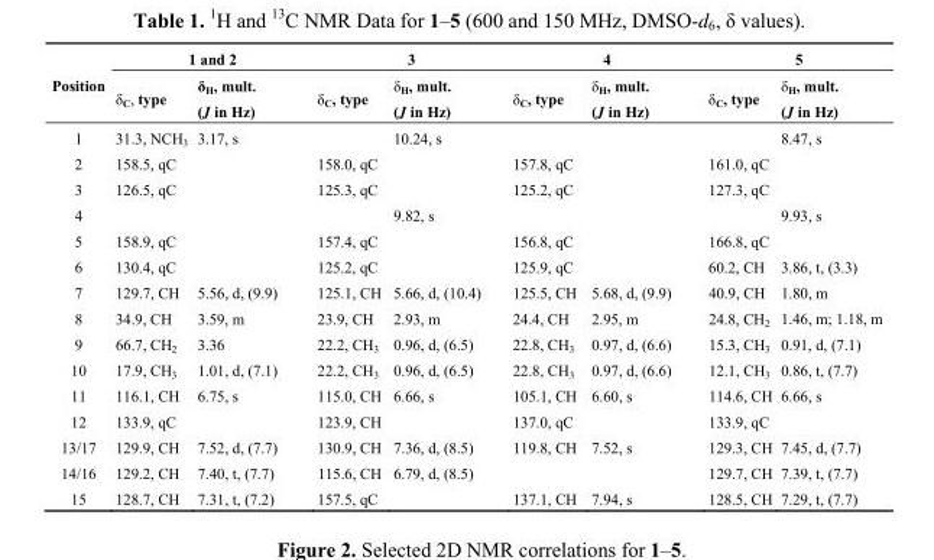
<table><thead><tr><td rowspan="2">Position</td><td colspan="2">1 and 2</td><td colspan="2">3</td><td colspan="2">4</td><td colspan="2">5</td></tr><tr><td>δ<sub>C</sub>, type</td><td>δ<sub>H</sub>, mult. (J in Hz)</td><td>δ<sub>C</sub>, type</td><td>δ<sub>H</sub>, mult. (J in Hz)</td><td>δ<sub>C</sub>, type</td><td>δ<sub>H</sub>, mult. (J in Hz)</td><td>δ<sub>C</sub>, type</td><td>δ<sub>H</sub>, mult. (J in Hz)</td></tr></thead><tbody><tr><td>1</td><td>31.3, NCH<sub>3</sub></td><td>3.17, s</td><td></td><td>10.24, s</td><td></td><td></td><td></td><td>8.47, s</td></tr><tr><td>2</td><td>158.5, qC</td><td></td><td>158.0, qC</td><td></td><td>157.8, qC</td><td></td><td>161.0, qC</td><td></td></tr><tr><td>3</td><td>126.5, qC</td><td></td><td>125.3, qC</td><td></td><td>125.2, qC</td><td></td><td>127.3, qC</td><td></td></tr><tr><td>4</td><td></td><td></td><td></td><td>9.82, s</td><td></td><td></td><td></td><td>9.93, s</td></tr><tr><td>5</td><td>158.9, qC</td><td></td><td>157.4, qC</td><td></td><td>156.8, qC</td><td></td><td>166.8, qC</td><td></td></tr><tr><td>6</td><td>130.4, qC</td><td></td><td>125.2, qC</td><td></td><td>125.9, qC</td><td></td><td>60.2, CH</td><td>3.86, t, (3.3)</td></tr><tr><td>7</td><td>129.7, CH</td><td>5.56, d, (9.9)</td><td>125.1, CH</td><td>5.66, d, (10.4)</td><td>125.5, CH</td><td>5.68, d, (9.9)</td><td>40.9, CH</td><td>1.80, m</td></tr><tr><td>8</td><td>34.9, CH</td><td>3.59, m</td><td>23.9, CH</td><td>2.93, m</td><td>24.4, CH</td><td>2.95, m</td><td>24.8, CH<sub>2</sub></td><td>1.46, m; 1.18, m</td></tr><tr><td>9</td><td>66.7, CH<sub>2</sub></td><td>3.36</td><td>22.2, CH<sub>3</sub></td><td>0.96, d, (6.5)</td><td>22.8, CH<sub>3</sub></td><td>0.97, d, (6.6)</td><td>15.3, CH<sub>3</sub></td><td>0.91, d, (7.1)</td></tr><tr><td>10</td><td>17.9, CH<sub>3</sub></td><td>1.01, d, (7.1)</td><td>22.2, CH<sub>3</sub></td><td>0.96, d, (6.5)</td><td>22.8, CH<sub>3</sub></td><td>0.97, d, (6.6)</td><td>12.1, CH<sub>3</sub></td><td>0.86, t, (7.7)</td></tr><tr><td>11</td><td>116.1, CH</td><td>6.75, s</td><td>115.0, CH</td><td>6.66, s</td><td>105.1, CH</td><td>6.60, s</td><td>114.6, CH</td><td>6.66, s</td></tr><tr><td>12</td><td>133.9, qC</td><td></td><td>123.9, CH</td><td></td><td>137.0, qC</td><td></td><td>133.9, qC</td><td></td></tr><tr><td>13/17</td><td>129.9, CH</td><td>7.52, d, (7.7)</td><td>130.9, CH</td><td>7.36, d, (8.5)</td><td>119.8, CH</td><td>7.52, s</td><td>129.3, CH</td><td>7.45, d, (7.7)</td></tr><tr><td>14/16</td><td>129.2, CH</td><td>7.40, t, (7.7)</td><td>115.6, CH</td><td>6.79, d, (8.5)</td><td></td><td></td><td>129.7, CH</td><td>7.39, t, (7.7)</td></tr><tr><td>15</td><td>128.7, CH</td><td>7.31, t, (7.2)</td><td>157.5, qC</td><td></td><td>137.1, CH</td><td>7.94, s</td><td>128.5, CH</td><td>7.29, t, (7.7)</td></tr></tbody></table>